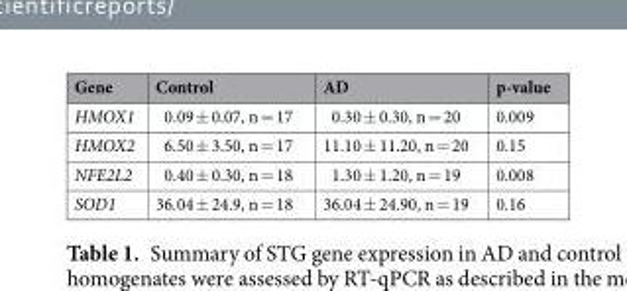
<table><thead><tr><td>Gene</td><td>Control</td><td>AD</td><td>p-value</td></tr></thead><tbody><tr><td>HMOX1</td><td>0.09 ± 0.07, n = 17</td><td>0.30 ± 0.30, n = 20</td><td>0.009</td></tr><tr><td>HMOX2</td><td>6.50 ± 3.50, n = 17</td><td>11.10 ± 11.20, n = 20</td><td>0.15</td></tr><tr><td>NFE2L2</td><td>0.40 ± 0.30, n = 18</td><td>1.30 ± 1.20, n = 19</td><td>0.008</td></tr><tr><td>SOD1</td><td>36.04 ± 24.9, n = 18</td><td>36.04 ± 24.90, n = 19</td><td>0.16</td></tr></tbody></table>